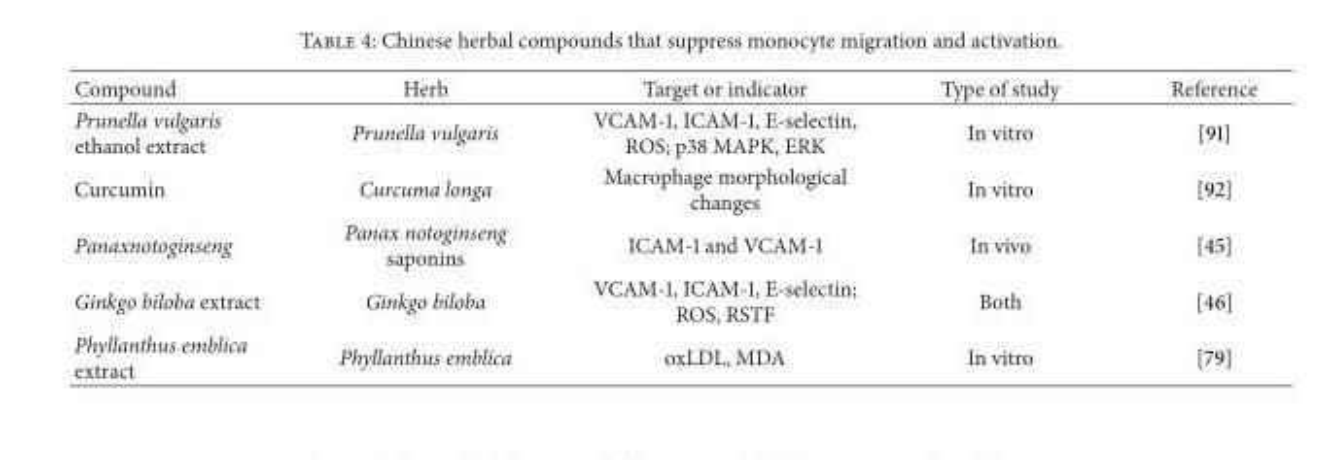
<table><thead><tr><td>Compound</td><td>Herb</td><td>Target or indicator</td><td>Type of study</td><td>Reference</td></tr></thead><tbody><tr><td>Prunella vulgaris ethanol extract</td><td>Prunella vulgaris</td><td>VCAM-1, ICAM-1, E-selectin, ROS; p38 MAPK, ERK</td><td>In vitro</td><td>[91]</td></tr><tr><td>Curcumin</td><td>Curcuma longa</td><td>Macrophage morphological changes</td><td>In vitro</td><td>[92]</td></tr><tr><td>Panaxnotoginseng</td><td>Panax notoginseng saponins</td><td>ICAM-1 and VCAM-1</td><td>In vivo</td><td>[45]</td></tr><tr><td>Ginkgo biloba extract</td><td>Ginkgo biloba</td><td>VCAM-1, ICAM-1, E-selectin; ROS, RSTF</td><td>Both</td><td>[46]</td></tr><tr><td>Phyllanthus emblica extract</td><td>Phyllanthus emblica</td><td>oxLDL, MDA</td><td>In vitro</td><td>[79]</td></tr></tbody></table>